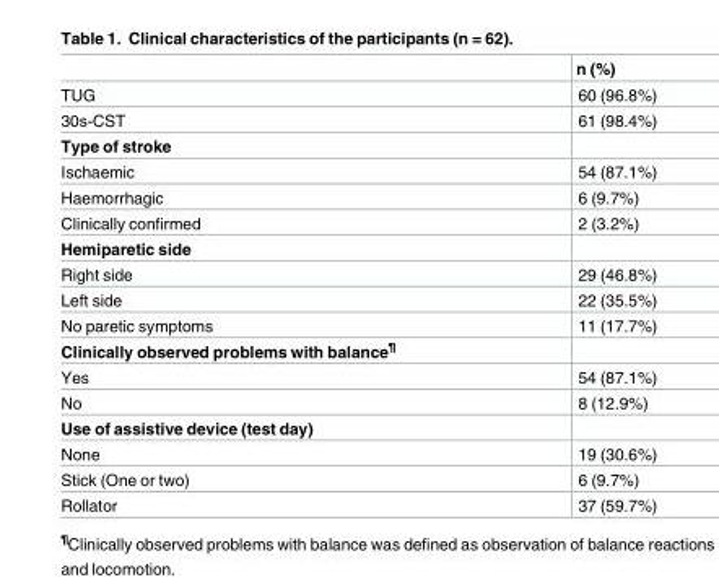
<table><thead><tr><td></td><td>n (%)</td></tr></thead><tbody><tr><td>TUG</td><td>60 (96.8%)</td></tr><tr><td>30s-CST</td><td>61 (98.4%)</td></tr><tr><td colspan="2">Type of stroke</td></tr><tr><td>Ischaemic</td><td>54 (87.1%)</td></tr><tr><td>Haemorrhagic</td><td>6 (9.7%)</td></tr><tr><td>Clinically confirmed</td><td>2 (3.2%)</td></tr><tr><td colspan="2">Hemiparetic side</td></tr><tr><td>Right side</td><td>29 (46.8%)</td></tr><tr><td>Left side</td><td>22 (35.5%)</td></tr><tr><td>No paretic symptoms</td><td>11 (17.7%)</td></tr><tr><td colspan="2">Clinically observed problems with balance<sup>¶</sup></td></tr><tr><td>Yes</td><td>54 (87.1%)</td></tr><tr><td>No</td><td>8 (12.9%)</td></tr><tr><td colspan="2">Use of assistive device (test day)</td></tr><tr><td>None</td><td>19 (30.6%)</td></tr><tr><td>Stick (One or two)</td><td>6 (9.7%)</td></tr><tr><td>Rollator</td><td>37 (59.7%)</td></tr></tbody></table>